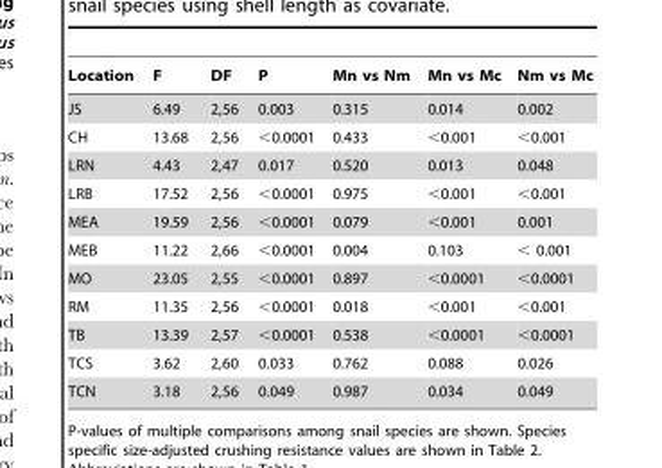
<table><thead><tr><td>Location</td><td>F</td><td>DF</td><td>P</td><td>Mn vs Nm</td><td>Mn vs Mc</td><td>Nm vs Mc</td></tr></thead><tbody><tr><td>JS</td><td>6.49</td><td>2,56</td><td>0.003</td><td>0.315</td><td>0.014</td><td>0.002</td></tr><tr><td>CH</td><td>13.68</td><td>2,56</td><td>&lt;0.0001</td><td>0.433</td><td>&lt;0.001</td><td>&lt;0.001</td></tr><tr><td>LRN</td><td>4.43</td><td>2,47</td><td>0.017</td><td>0.520</td><td>0.013</td><td>0.048</td></tr><tr><td>LRB</td><td>17.52</td><td>2,56</td><td>&lt;0.0001</td><td>0.975</td><td>&lt;0.001</td><td>&lt;0.001</td></tr><tr><td>MEA</td><td>19.59</td><td>2,56</td><td>&lt;0.0001</td><td>0.079</td><td>&lt;0.001</td><td>0.001</td></tr><tr><td>MEB</td><td>11.22</td><td>2,66</td><td>&lt;0.0001</td><td>0.004</td><td>0.103</td><td>&lt; 0.001</td></tr><tr><td>MO</td><td>23.05</td><td>2,55</td><td>&lt;0.0001</td><td>0.897</td><td>&lt;0.0001</td><td>&lt;0.0001</td></tr><tr><td>RM</td><td>11.35</td><td>2,56</td><td>&lt;0.0001</td><td>0.018</td><td>&lt;0.001</td><td>&lt;0.001</td></tr><tr><td>TB</td><td>13.39</td><td>2,57</td><td>&lt;0.0001</td><td>0.538</td><td>&lt;0.0001</td><td>&lt;0.0001</td></tr><tr><td>TCS</td><td>3.62</td><td>2,60</td><td>0.033</td><td>0.762</td><td>0.088</td><td>0.026</td></tr><tr><td>TCN</td><td>3.18</td><td>2,56</td><td>0.049</td><td>0.987</td><td>0.034</td><td>0.049</td></tr></tbody></table>